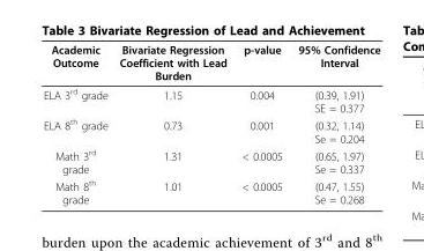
<table><thead><tr><td>Academic Outcome</td><td>Bivariate Regression Coefficient with Lead Burden</td><td>p-value</td><td>95% Confidence Interval</td></tr></thead><tbody><tr><td>ELA 3<sup>rd</sup> grade</td><td>1.15</td><td>0.004</td><td>(0.39, 1.91) SE = 0.377</td></tr><tr><td>ELA 8<sup>th</sup> grade</td><td>0.73</td><td>0.001</td><td>(0.32, 1.14) Se = 0.204</td></tr><tr><td>Math 3<sup>rd</sup> grade</td><td>1.31</td><td>&lt; 0.0005</td><td>(0.65, 1.97) Se = 0.337</td></tr><tr><td>Math 8<sup>th</sup> grade</td><td>1.01</td><td>&lt; 0.0005</td><td>(0.47, 1.55) Se = 0.268</td></tr></tbody></table>